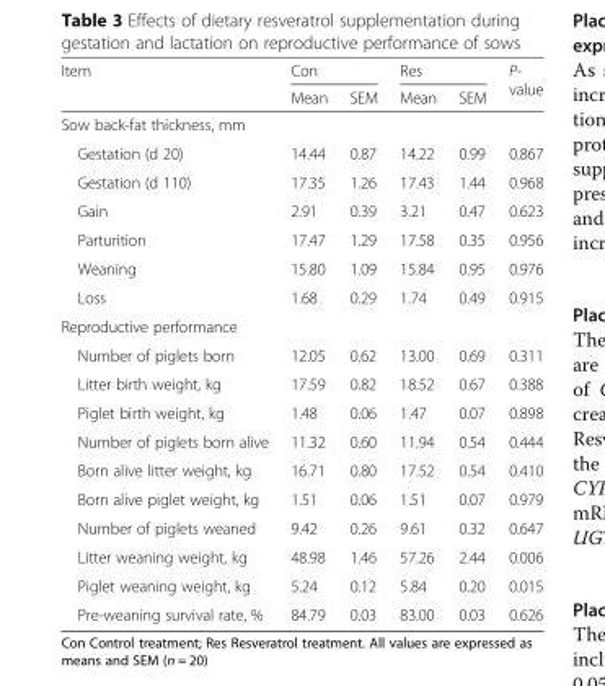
<table><thead><tr><td rowspan="2">Item</td><td colspan="2">Con</td><td colspan="2">Res</td><td rowspan="2">P- value</td></tr><tr><td>Mean</td><td>SEM</td><td>Mean</td><td>SEM</td></tr></thead><tbody><tr><td colspan="6">Sow back-fat thickness, mm</td></tr><tr><td>Gestation (d 20)</td><td>14.44</td><td>0.87</td><td>14.22</td><td>0.99</td><td>0.867</td></tr><tr><td>Gestation (d 110)</td><td>17.35</td><td>1.26</td><td>17.43</td><td>1.44</td><td>0.968</td></tr><tr><td>Gain</td><td>2.91</td><td>0.39</td><td>3.21</td><td>0.47</td><td>0.623</td></tr><tr><td>Parturition</td><td>17.47</td><td>1.29</td><td>17.58</td><td>0.35</td><td>0.956</td></tr><tr><td>Weaning</td><td>15.80</td><td>1.09</td><td>15.84</td><td>0.95</td><td>0.976</td></tr><tr><td>Loss</td><td>1.68</td><td>0.29</td><td>1.74</td><td>0.49</td><td>0.915</td></tr><tr><td colspan="6">Reproductive performance</td></tr><tr><td>Number of piglets born</td><td>12.05</td><td>0.62</td><td>13.00</td><td>0.69</td><td>0.311</td></tr><tr><td>Litter birth weight, kg</td><td>17.59</td><td>0.82</td><td>18.52</td><td>0.67</td><td>0.388</td></tr><tr><td>Piglet birth weight, kg</td><td>1.48</td><td>0.06</td><td>1.47</td><td>0.07</td><td>0.898</td></tr><tr><td>Number of piglets born alive</td><td>11.32</td><td>0.60</td><td>11.94</td><td>0.54</td><td>0.444</td></tr><tr><td>Born alive litter weight, kg</td><td>16.71</td><td>0.80</td><td>17.52</td><td>0.54</td><td>0.410</td></tr><tr><td>Born alive piglet weight, kg</td><td>1.51</td><td>0.06</td><td>1.51</td><td>0.07</td><td>0.979</td></tr><tr><td>Number of piglets weaned</td><td>9.42</td><td>0.26</td><td>9.61</td><td>0.32</td><td>0.647</td></tr><tr><td>Litter weaning weight, kg</td><td>48.98</td><td>1.46</td><td>57.26</td><td>2.44</td><td>0.006</td></tr><tr><td>Piglet weaning weight, kg</td><td>5.24</td><td>0.12</td><td>5.84</td><td>0.20</td><td>0.015</td></tr><tr><td>Pre-weaning survival rate, %</td><td>84.79</td><td>0.03</td><td>83.00</td><td>0.03</td><td>0.626</td></tr></tbody></table>